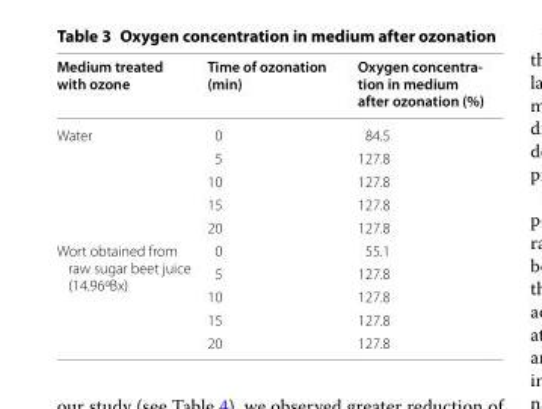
<table><thead><tr><td>Medium treated with ozone</td><td>Time of ozonation (min)</td><td>Oxygen concentra- tion in medium after ozonation (%)</td></tr></thead><tbody><tr><td rowspan="5">Water</td><td>0</td><td>84.5</td></tr><tr><td>5</td><td>127.8</td></tr><tr><td>10</td><td>127.8</td></tr><tr><td>15</td><td>127.8</td></tr><tr><td>20</td><td>127.8</td></tr><tr><td rowspan="5">Wort obtained from raw sugar beet juice (14.96ºBx)</td><td>0</td><td>55.1</td></tr><tr><td>5</td><td>127.8</td></tr><tr><td>10</td><td>127.8</td></tr><tr><td>15</td><td>127.8</td></tr><tr><td>20</td><td>127.8</td></tr></tbody></table>